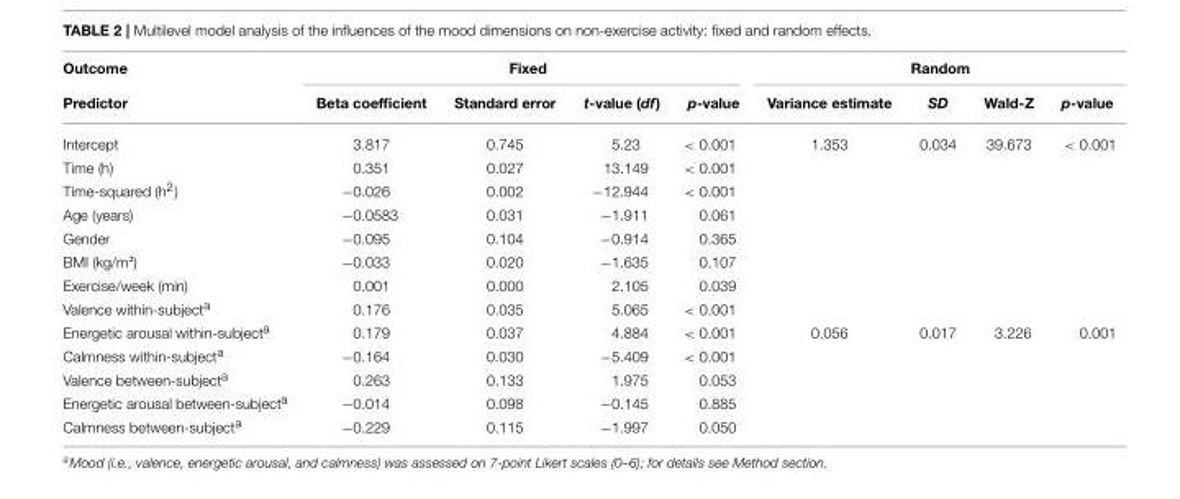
<table><thead><tr><td rowspan="2">Outcome Predictor</td><td colspan="4">Fixed</td><td colspan="4">Random</td></tr><tr><td>Beta coefficient</td><td>Standard error</td><td>t-value (df)</td><td>p-value</td><td>Variance estimate</td><td>SD</td><td>Wald-Z</td><td>p-value</td></tr></thead><tbody><tr><td>Intercept</td><td>3.817</td><td>0.745</td><td>5.23</td><td>&lt; 0.001</td><td>1.353</td><td>0.034</td><td>39.673</td><td>&lt; 0.001</td></tr><tr><td>Time (h)</td><td>0.351</td><td>0.027</td><td>13.149</td><td>&lt; 0.001</td><td></td><td></td><td></td><td></td></tr><tr><td>Time-squared (h<sup>2</sup>)</td><td>−0.026</td><td>0.002</td><td>−12.944</td><td>&lt; 0.001</td><td></td><td></td><td></td><td></td></tr><tr><td>Age (years)</td><td>−0.0583</td><td>0.031</td><td>−1.911</td><td>0.061</td><td></td><td></td><td></td><td></td></tr><tr><td>Gender</td><td>−0.095</td><td>0.104</td><td>−0.914</td><td>0.365</td><td></td><td></td><td></td><td></td></tr><tr><td>BMI (kg/m²)</td><td>−0.033</td><td>0.020</td><td>−1.635</td><td>0.107</td><td></td><td></td><td></td><td></td></tr><tr><td>Exercise/week (min)</td><td>0.001</td><td>0.000</td><td>2.105</td><td>0.039</td><td></td><td></td><td></td><td></td></tr><tr><td>Valence within-subject<sup>a</sup></td><td>0.176</td><td>0.035</td><td>5.065</td><td>&lt; 0.001</td><td></td><td></td><td></td><td></td></tr><tr><td>Energetic arousal within-subject<sup>a</sup></td><td>0.179</td><td>0.037</td><td>4.884</td><td>&lt; 0.001</td><td>0.056</td><td>0.017</td><td>3.226</td><td>0.001</td></tr><tr><td>Calmness within-subject<sup>a</sup></td><td>−0.164</td><td>0.030</td><td>−5.409</td><td>&lt; 0.001</td><td></td><td></td><td></td><td></td></tr><tr><td>Valence between-subject<sup>a</sup></td><td>0.263</td><td>0.133</td><td>1.975</td><td>0.053</td><td></td><td></td><td></td><td></td></tr><tr><td>Energetic arousal between-subject<sup>a</sup></td><td>−0.014</td><td>0.098</td><td>−0.145</td><td>0.885</td><td></td><td></td><td></td><td></td></tr><tr><td>Calmness between-subject<sup>a</sup></td><td>−0.229</td><td>0.115</td><td>−1.997</td><td>0.050</td><td></td><td></td><td></td><td></td></tr></tbody></table>